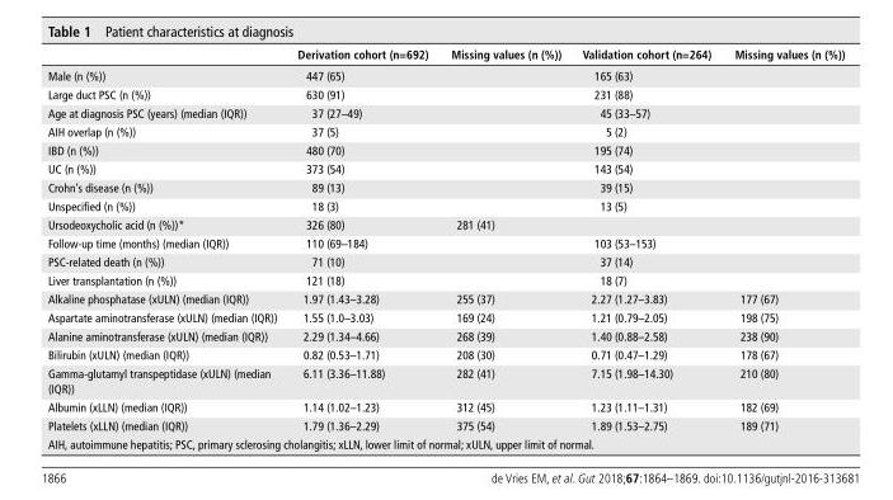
<table><thead><tr><td></td><td>Derivation cohort (n=692)</td><td>Missing values (n (%))</td><td>Validation cohort (n=264)</td><td>Missing values (n (%))</td></tr></thead><tbody><tr><td>Male (n (%))</td><td>447 (65)</td><td></td><td>165 (63)</td><td></td></tr><tr><td>Large duct PSC (n (%))</td><td>630 (91)</td><td></td><td>231 (88)</td><td></td></tr><tr><td>Age at diagnosis PSC (years) (median (IQR))</td><td>37 (27–49)</td><td></td><td>45 (33–57)</td><td></td></tr><tr><td>AIH overlap (n (%))</td><td>37 (5)</td><td></td><td>5 (2)</td><td></td></tr><tr><td>IBD (n (%))</td><td>480 (70)</td><td></td><td>195 (74)</td><td></td></tr><tr><td>UC (n (%))</td><td>373 (54)</td><td></td><td>143 (54)</td><td></td></tr><tr><td>Crohn’s disease (n (%))</td><td>89 (13)</td><td></td><td>39 (15)</td><td></td></tr><tr><td>Unspecified (n (%))</td><td>18 (3)</td><td></td><td>13 (5)</td><td></td></tr><tr><td>Ursodeoxycholic acid (n (%))*</td><td>326 (80)</td><td>281 (41)</td><td></td><td></td></tr><tr><td>Follow-up time (months) (median (IQR))</td><td>110 (69–184)</td><td></td><td>103 (53–153)</td><td></td></tr><tr><td>PSC-related death (n (%))</td><td>71 (10)</td><td></td><td>37 (14)</td><td></td></tr><tr><td>Liver transplantation (n (%))</td><td>121 (18)</td><td></td><td>18 (7)</td><td></td></tr><tr><td>Alkaline phosphatase (xULN) (median (IQR))</td><td>1.97 (1.43–3.28)</td><td>255 (37)</td><td>2.27 (1.27–3.83)</td><td>177 (67)</td></tr><tr><td>Aspartate aminotransferase (xULN) (median (IQR))</td><td>1.55 (1.0–3.03)</td><td>169 (24)</td><td>1.21 (0.79–2.05)</td><td>198 (75)</td></tr><tr><td>Alanine aminotransferase (xULN) (median (IQR))</td><td>2.29 (1.34–4.66)</td><td>268 (39)</td><td>1.40 (0.88–2.58)</td><td>238 (90)</td></tr><tr><td>Bilirubin (xULN) (median (IQR))</td><td>0.82 (0.53–1.71)</td><td>208 (30)</td><td>0.71 (0.47–1.29)</td><td>178 (67)</td></tr><tr><td>Gamma-glutamyl transpeptidase (xULN) (median (IQR))</td><td>6.11 (3.36–11.88)</td><td>282 (41)</td><td>7.15 (1.98–14.30)</td><td>210 (80)</td></tr><tr><td>Albumin (xLLN) (median (IQR))</td><td>1.14 (1.02–1.23)</td><td>312 (45)</td><td>1.23 (1.11–1.31)</td><td>182 (69)</td></tr><tr><td>Platelets (xLLN) (median (IQR))</td><td>1.79 (1.36–2.29)</td><td>375 (54)</td><td>1.89 (1.53–2.75)</td><td>189 (71)</td></tr><tr><td colspan="5">AIH, autoimmune hepatitis; PSC, primary sclerosing cholangitis; xLLN, lower limit of normal; xULN, upper limit of normal.</td></tr></tbody></table>